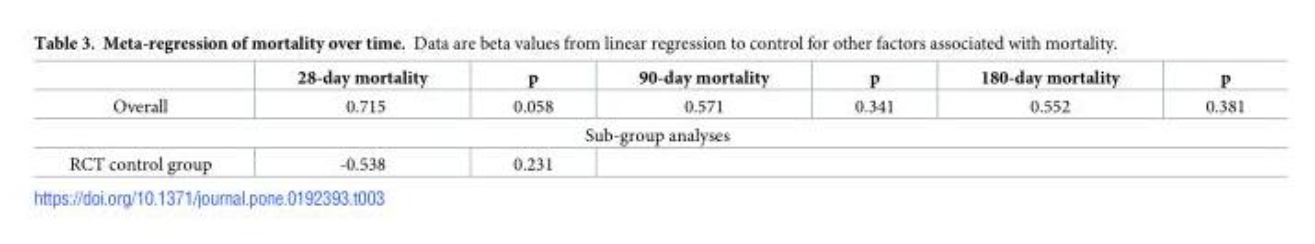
<table><thead><tr><td></td><td>28-day mortality</td><td>p</td><td>90-day mortality</td><td>p</td><td>180-day mortality</td><td>p</td></tr></thead><tbody><tr><td>Overall</td><td>0.715</td><td>0.058</td><td>0.571</td><td>0.341</td><td>0.552</td><td>0.381</td></tr><tr><td colspan="7">Sub-group analyses</td></tr><tr><td>RCT control group</td><td>-0.538</td><td>0.231</td><td colspan="4"></td></tr></tbody></table>